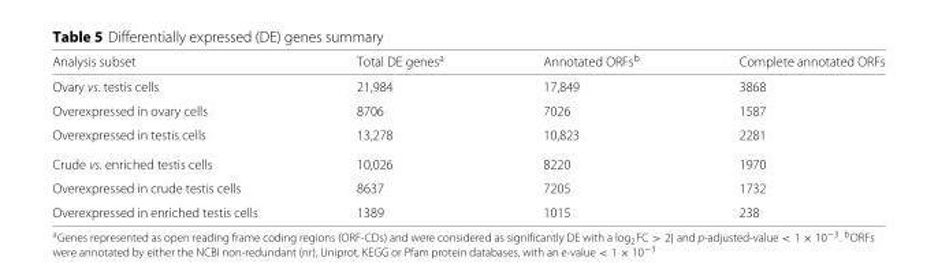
<table><thead><tr><td>Analysis subset</td><td>Total DE genes<sup>a</sup></td><td>Annotated ORFs<sup>b</sup></td><td>Complete annotated ORFs</td></tr></thead><tbody><tr><td>Ovary vs. testis cells</td><td>21,984</td><td>17,849</td><td>3868</td></tr><tr><td>Overexpressed in ovary cells</td><td>8706</td><td>7026</td><td>1587</td></tr><tr><td>Overexpressed in testis cells</td><td>13,278</td><td>10,823</td><td>2281</td></tr><tr><td>Crude vs. enriched testis cells</td><td>10,026</td><td>8220</td><td>1970</td></tr><tr><td>Overexpressed in crude testis cells</td><td>8637</td><td>7205</td><td>1732</td></tr><tr><td>Overexpressed in enriched testis cells</td><td>1389</td><td>1015</td><td>238</td></tr></tbody></table>